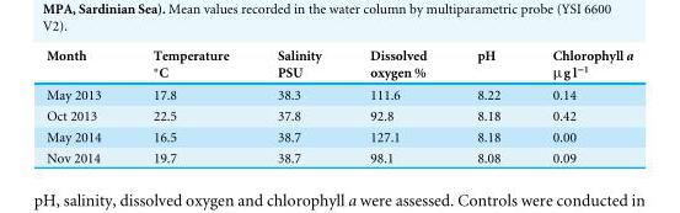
<table><thead><tr><td>Month</td><td>Temperature ◦C</td><td>Salinity PSU</td><td>Dissolved oxygen %</td><td>pH</td><td>Chlorophyll a µg l<sup>−1</sup></td></tr></thead><tbody><tr><td>May 2013</td><td>17.8</td><td>38.3</td><td>111.6</td><td>8.22</td><td>0.14</td></tr><tr><td>Oct 2013</td><td>22.5</td><td>37.8</td><td>92.8</td><td>8.18</td><td>0.42</td></tr><tr><td>May 2014</td><td>16.5</td><td>38.7</td><td>127.1</td><td>8.18</td><td>0.00</td></tr><tr><td>Nov 2014</td><td>19.7</td><td>38.7</td><td>98.1</td><td>8.08</td><td>0.09</td></tr></tbody></table>